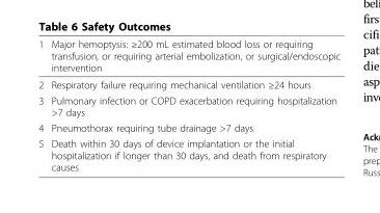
<table><thead><tr><td>1</td><td>Major hemoptysis: ≥200 mL estimated blood loss or requiring transfusion, or requiring arterial embolization, or surgical/endoscopic intervention</td></tr></thead><tbody><tr><td>2</td><td>Respiratory failure requiring mechanical ventilation ≥24 hours</td></tr><tr><td>3</td><td>Pulmonary infection or COPD exacerbation requiring hospitalization &gt;7 days</td></tr><tr><td>4</td><td>Pneumothorax requiring tube drainage &gt;7 days</td></tr><tr><td>5</td><td>Death within 30 days of device implantation or the initial hospitalization if longer than 30 days, and death from respiratory causes</td></tr></tbody></table>